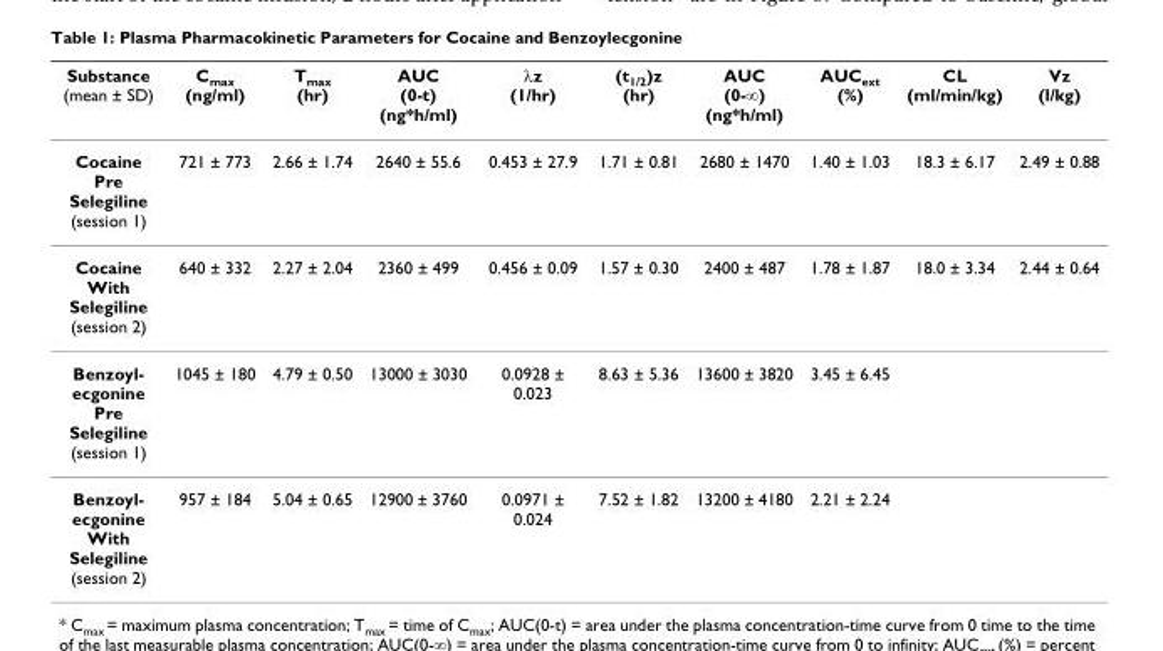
<table><thead><tr><td>Substance (mean ± SD)</td><td>C<sub>max</sub> (ng/ml)</td><td>T<sub>max</sub> (hr)</td><td>AUC (0-t) (ng*h/ml)</td><td>λz (1/hr)</td><td>(t<sub>1/2</sub>)z (hr)</td><td>AUC (0-∞) (ng*h/ml)</td><td>AUC<sub>ext</sub> (%)</td><td>CL (ml/min/kg)</td><td>Vz (l/kg)</td></tr></thead><tbody><tr><td>Cocaine Pre Selegiline (session 1)</td><td>721 ± 773</td><td>2.66 ± 1.74</td><td>2640 ± 55.6</td><td>0.453 ± 27.9</td><td>1.71 ± 0.81</td><td>2680 ± 1470</td><td>1.40 ± 1.03</td><td>18.3 ± 6.17</td><td>2.49 ± 0.88</td></tr><tr><td>Cocaine With Selegiline (session 2)</td><td>640 ± 332</td><td>2.27 ± 2.04</td><td>2360 ± 499</td><td>0.456 ± 0.09</td><td>1.57 ± 0.30</td><td>2400 ± 487</td><td>1.78 ± 1.87</td><td>18.0 ± 3.34</td><td>2.44 ± 0.64</td></tr><tr><td>Benzoyl- ecgonine Pre Selegiline (session 1)</td><td>1045 ± 180</td><td>4.79 ± 0.50</td><td>13000 ± 3030</td><td>0.0928 ± 0.023</td><td>8.63 ± 5.36</td><td>13600 ± 3820</td><td>3.45 ± 6.45</td><td></td><td></td></tr><tr><td>Benzoyl- ecgonine With Selegiline (session 2)</td><td>957 ± 184</td><td>5.04 ± 0.65</td><td>12900 ± 3760</td><td>0.0971 ± 0.024</td><td>7.52 ± 1.82</td><td>13200 ± 4180</td><td>2.21 ± 2.24</td><td></td><td></td></tr></tbody></table>